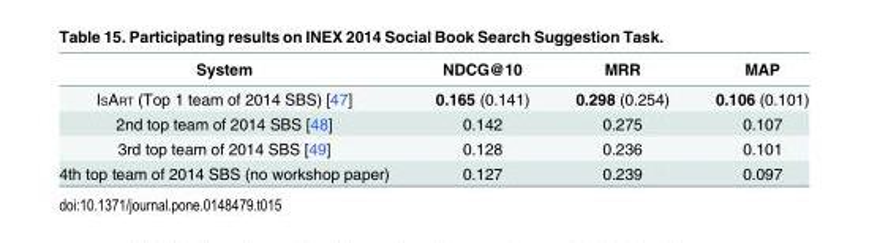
<table><thead><tr><td>System</td><td>NDCG@10</td><td>MRR</td><td>MAP</td></tr></thead><tbody><tr><td>ISART (Top 1 team of 2014 SBS) [47]</td><td>0.165 (0.141)</td><td>0.298 (0.254)</td><td>0.106 (0.101)</td></tr><tr><td>2nd top team of 2014 SBS [48]</td><td>0.142</td><td>0.275</td><td>0.107</td></tr><tr><td>3rd top team of 2014 SBS [49]</td><td>0.128</td><td>0.236</td><td>0.101</td></tr><tr><td>4th top team of 2014 SBS (no workshop paper)</td><td>0.127</td><td>0.239</td><td>0.097</td></tr></tbody></table>